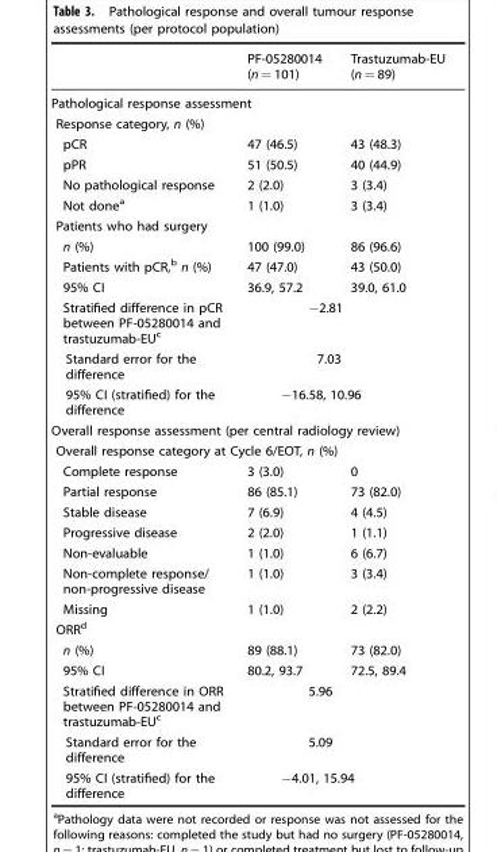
<table><thead><tr><td></td><td>PF-05280014 (n = 101)</td><td>Trastuzumab-EU (n = 89)</td></tr></thead><tbody><tr><td colspan="3">Pathological response assessment</td></tr><tr><td colspan="3">Response category, n (%)</td></tr><tr><td>pCR</td><td>47 (46.5)</td><td>43 (48.3)</td></tr><tr><td>pPR</td><td>51 (50.5)</td><td>40 (44.9)</td></tr><tr><td>No pathological response</td><td>2 (2.0)</td><td>3 (3.4)</td></tr><tr><td>Not done<sup>a</sup></td><td>1 (1.0)</td><td>3 (3.4)</td></tr><tr><td colspan="3">Patients who had surgery</td></tr><tr><td>n (%)</td><td>100 (99.0)</td><td>86 (96.6)</td></tr><tr><td>Patients with pCR,<sup>b</sup> n (%)</td><td>47 (47.0)</td><td>43 (50.0)</td></tr><tr><td>95% CI</td><td>36.9, 57.2</td><td>39.0, 61.0</td></tr><tr><td>Stratified difference in pCR between PF-05280014 and trastuzumab-EU<sup>c</sup></td><td colspan="2">−2.81</td></tr><tr><td>Standard error for the difference</td><td colspan="2">7.03</td></tr><tr><td>95% CI (stratified) for the difference</td><td colspan="2">−16.58, 10.96</td></tr><tr><td colspan="3">Overall response assessment (per central radiology review)</td></tr><tr><td colspan="3">Overall response category at Cycle 6/EOT, n (%)</td></tr><tr><td>Complete response</td><td>3 (3.0)</td><td>0</td></tr><tr><td>Partial response</td><td>86 (85.1)</td><td>73 (82.0)</td></tr><tr><td>Stable disease</td><td>7 (6.9)</td><td>4 (4.5)</td></tr><tr><td>Progressive disease</td><td>2 (2.0)</td><td>1 (1.1)</td></tr><tr><td>Non-evaluable</td><td>1 (1.0)</td><td>6 (6.7)</td></tr><tr><td>Non-complete response/ non-progressive disease</td><td>1 (1.0)</td><td>3 (3.4)</td></tr><tr><td>Missing</td><td>1 (1.0)</td><td>2 (2.2)</td></tr><tr><td colspan="3">ORR<sup>d</sup></td></tr><tr><td>n (%)</td><td>89 (88.1)</td><td>73 (82.0)</td></tr><tr><td>95% CI</td><td>80.2, 93.7</td><td>72.5, 89.4</td></tr><tr><td>Stratified difference in ORR between PF-05280014 and trastuzumab-EU<sup>c</sup></td><td colspan="2">5.96</td></tr><tr><td>Standard error for the difference</td><td colspan="2">5.09</td></tr><tr><td>95% CI (stratified) for the difference</td><td colspan="2">−4.01, 15.94</td></tr></tbody></table>